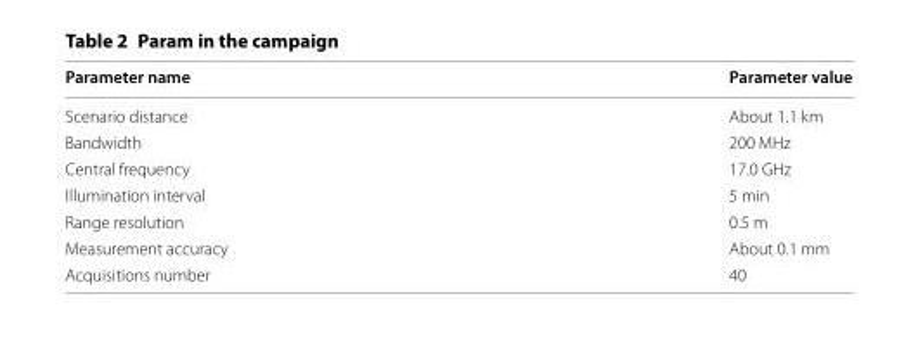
<table><thead><tr><td>Parameter name</td><td>Parameter value</td></tr></thead><tbody><tr><td>Scenario distance</td><td>About 1.1 km</td></tr><tr><td>Bandwidth</td><td>200 MHz</td></tr><tr><td>Central frequency</td><td>17.0 GHz</td></tr><tr><td>Illumination interval</td><td>5 min</td></tr><tr><td>Range resolution</td><td>0.5 m</td></tr><tr><td>Measurement accuracy</td><td>About 0.1 mm</td></tr><tr><td>Acquisitions number</td><td>40</td></tr></tbody></table>